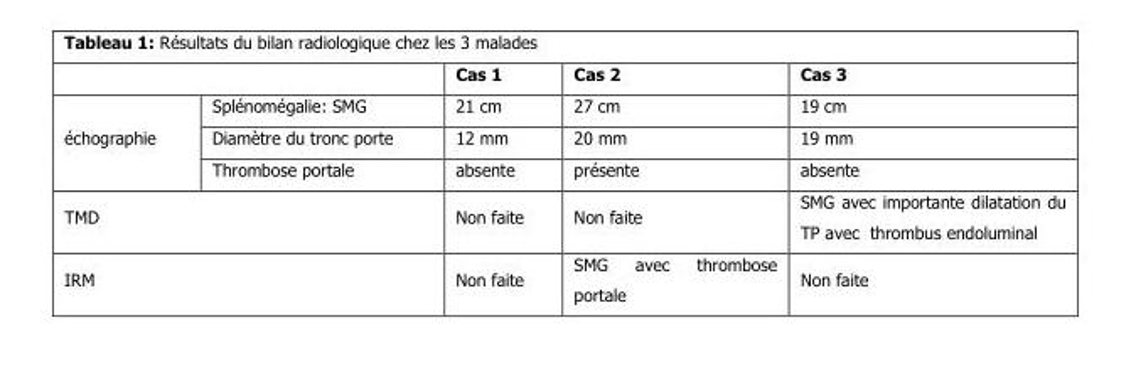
<table><thead><tr><td></td><td></td><td>Cas 1</td><td>Cas 2</td><td>Cas 3</td></tr></thead><tbody><tr><td rowspan="3">échographie</td><td>Splénomégalie: SMG</td><td>21 cm</td><td>27 cm</td><td>19 cm</td></tr><tr><td>Diamètre du tronc porte</td><td>12 mm</td><td>20 mm</td><td>19 mm</td></tr><tr><td>Thrombose portale</td><td>absente</td><td>présente</td><td>absente</td></tr><tr><td colspan="2">TMD</td><td>Non faite</td><td>Non faite</td><td>SMG avec importante dilatation du TP avec thrombus endoluminal</td></tr><tr><td colspan="2">IRM</td><td>Non faite</td><td>SMG avec thrombose portale</td><td>Non faite</td></tr></tbody></table>